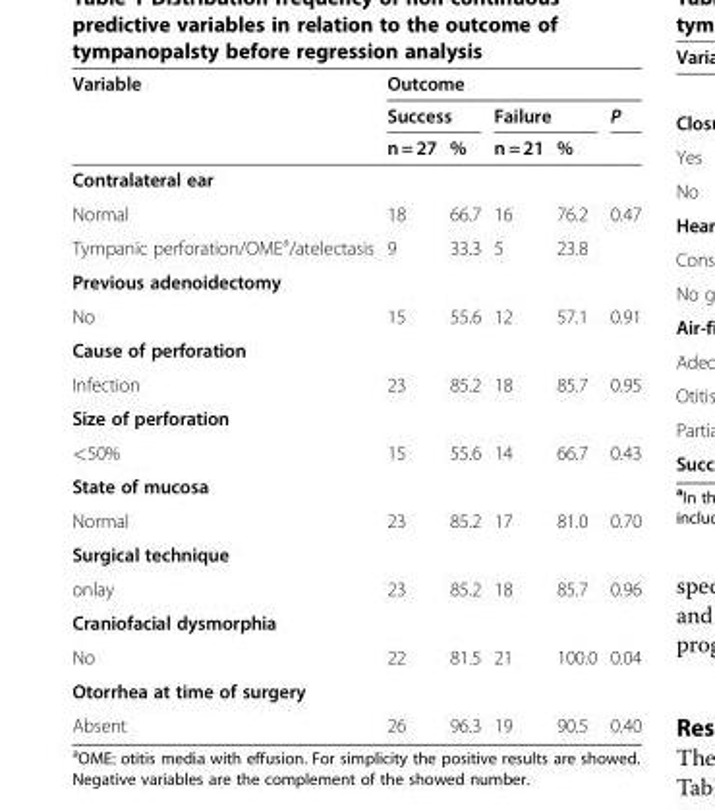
<table><thead><tr><td rowspan="3">Variable</td><td colspan="5">Outcome</td></tr><tr><td colspan="2">Success</td><td colspan="2">Failure</td><td rowspan="2">P</td></tr><tr><td>n = 27</td><td>%</td><td>n = 21</td><td>%</td></tr></thead><tbody><tr><td colspan="6">Contralateral ear</td></tr><tr><td>Normal</td><td>18</td><td>66.7</td><td>16</td><td>76.2</td><td>0.47</td></tr><tr><td>Tympanic perforation/OME<sup>a</sup>/atelectasis</td><td>9</td><td>33.3</td><td>5</td><td>23.8</td><td></td></tr><tr><td colspan="6">Previous adenoidectomy</td></tr><tr><td>No</td><td>15</td><td>55.6</td><td>12</td><td>57.1</td><td>0.91</td></tr><tr><td colspan="6">Cause of perforation</td></tr><tr><td>Infection</td><td>23</td><td>85.2</td><td>18</td><td>85.7</td><td>0.95</td></tr><tr><td colspan="6">Size of perforation</td></tr><tr><td>&lt;50%</td><td>15</td><td>55.6</td><td>14</td><td>66.7</td><td>0.43</td></tr><tr><td colspan="6">State of mucosa</td></tr><tr><td>Normal</td><td>23</td><td>85.2</td><td>17</td><td>81.0</td><td>0.70</td></tr><tr><td colspan="6">Surgical technique</td></tr><tr><td>onlay</td><td>23</td><td>85.2</td><td>18</td><td>85.7</td><td>0.96</td></tr><tr><td colspan="6">Craniofacial dysmorphia</td></tr><tr><td>No</td><td>22</td><td>81.5</td><td>21</td><td>100.0</td><td>0.04</td></tr><tr><td colspan="6">Otorrhea at time of surgery</td></tr><tr><td>Absent</td><td>26</td><td>96.3</td><td>19</td><td>90.5</td><td>0.40</td></tr></tbody></table>